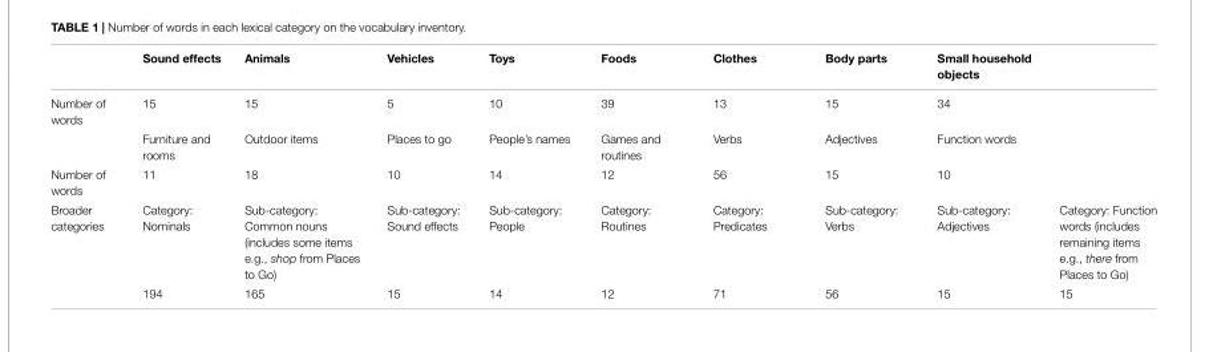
<table><thead><tr><td></td><td>Sound effects</td><td>Animals</td><td>Vehicles</td><td>Toys</td><td>Foods</td><td>Clothes</td><td>Body parts</td><td>Small household objects</td><td></td></tr></thead><tbody><tr><td rowspan="2">Number of words</td><td>15</td><td>15</td><td>5</td><td>10</td><td>39</td><td>13</td><td>15</td><td>34</td><td></td></tr><tr><td>Furniture and rooms</td><td>Outdoor items</td><td>Places to go</td><td>People’s names</td><td>Games and routines</td><td>Verbs</td><td>Adjectives</td><td>Function words</td><td></td></tr><tr><td>Number of words</td><td>11</td><td>18</td><td>10</td><td>14</td><td>12</td><td>56</td><td>15</td><td>10</td><td></td></tr><tr><td rowspan="2">Broader categories</td><td>Category: Nominals</td><td>Sub-category: Common nouns (includes some items e.g., shop from Places to Go)</td><td>Sub-category: Sound effects</td><td>Sub-category: People</td><td>Category: Routines</td><td>Category: Predicates</td><td>Sub-category: Verbs</td><td>Sub-category: Adjectives</td><td>Category: Function words (includes remaining items e.g., there from Places to Go)</td></tr><tr><td>194</td><td>165</td><td>15</td><td>14</td><td>12</td><td>71</td><td>56</td><td>15</td><td>15</td></tr></tbody></table>